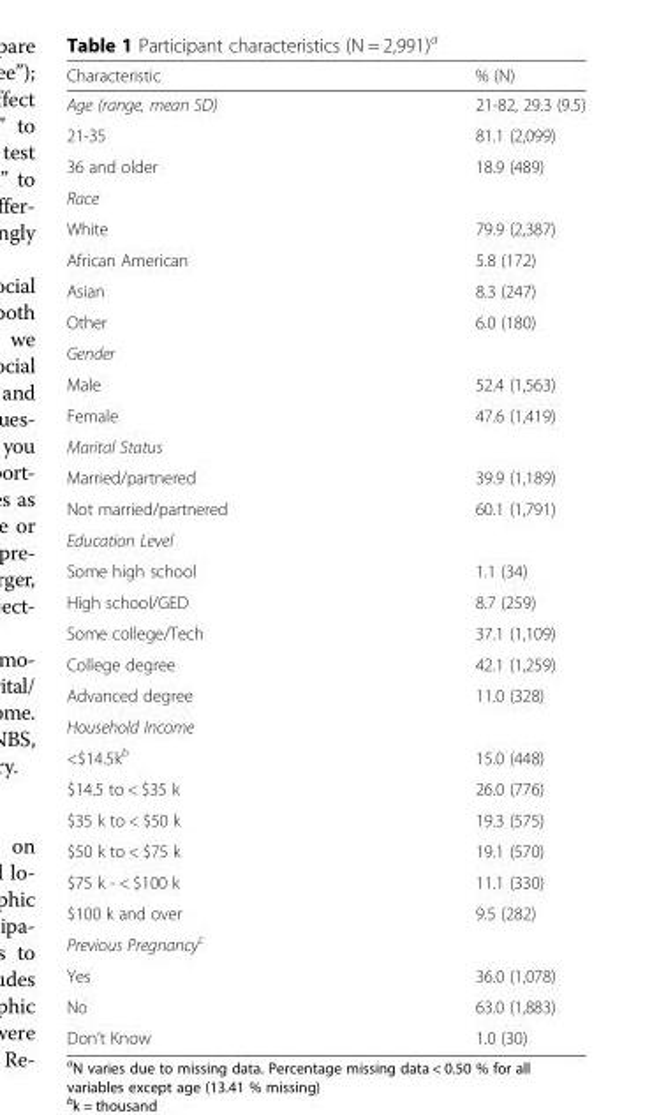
<table><thead><tr><td>Characteristic</td><td>% (N)</td></tr></thead><tbody><tr><td>Age (range, mean SD)</td><td>21-82, 29.3 (9.5)</td></tr><tr><td>21-35</td><td>81.1 (2,099)</td></tr><tr><td>36 and older</td><td>18.9 (489)</td></tr><tr><td colspan="2">Race</td></tr><tr><td>White</td><td>79.9 (2,387)</td></tr><tr><td>African American</td><td>5.8 (172)</td></tr><tr><td>Asian</td><td>8.3 (247)</td></tr><tr><td>Other</td><td>6.0 (180)</td></tr><tr><td colspan="2">Gender</td></tr><tr><td>Male</td><td>52.4 (1,563)</td></tr><tr><td>Female</td><td>47.6 (1,419)</td></tr><tr><td colspan="2">Marital Status</td></tr><tr><td>Married/partnered</td><td>39.9 (1,189)</td></tr><tr><td>Not married/partnered</td><td>60.1 (1,791)</td></tr><tr><td colspan="2">Education Level</td></tr><tr><td>Some high school</td><td>1.1 (34)</td></tr><tr><td>High school/GED</td><td>8.7 (259)</td></tr><tr><td>Some college/Tech</td><td>37.1 (1,109)</td></tr><tr><td>College degree</td><td>42.1 (1,259)</td></tr><tr><td>Advanced degree</td><td>11.0 (328)</td></tr><tr><td colspan="2">Household Income</td></tr><tr><td>&lt;$14.5k<sup>b</sup></td><td>15.0 (448)</td></tr><tr><td>$14.5 to &lt; $35 k</td><td>26.0 (776)</td></tr><tr><td>$35 k to &lt; $50 k</td><td>19.3 (575)</td></tr><tr><td>$50 k to &lt; $75 k</td><td>19.1 (570)</td></tr><tr><td>$75 k - &lt; $100 k</td><td>11.1 (330)</td></tr><tr><td>$100 k and over</td><td>9.5 (282)</td></tr><tr><td colspan="2">Previous Pregnancy<sup>c</sup></td></tr><tr><td>Yes</td><td>36.0 (1,078)</td></tr><tr><td>No</td><td>63.0 (1,883)</td></tr><tr><td>Don’t Know</td><td>1.0 (30)</td></tr></tbody></table>